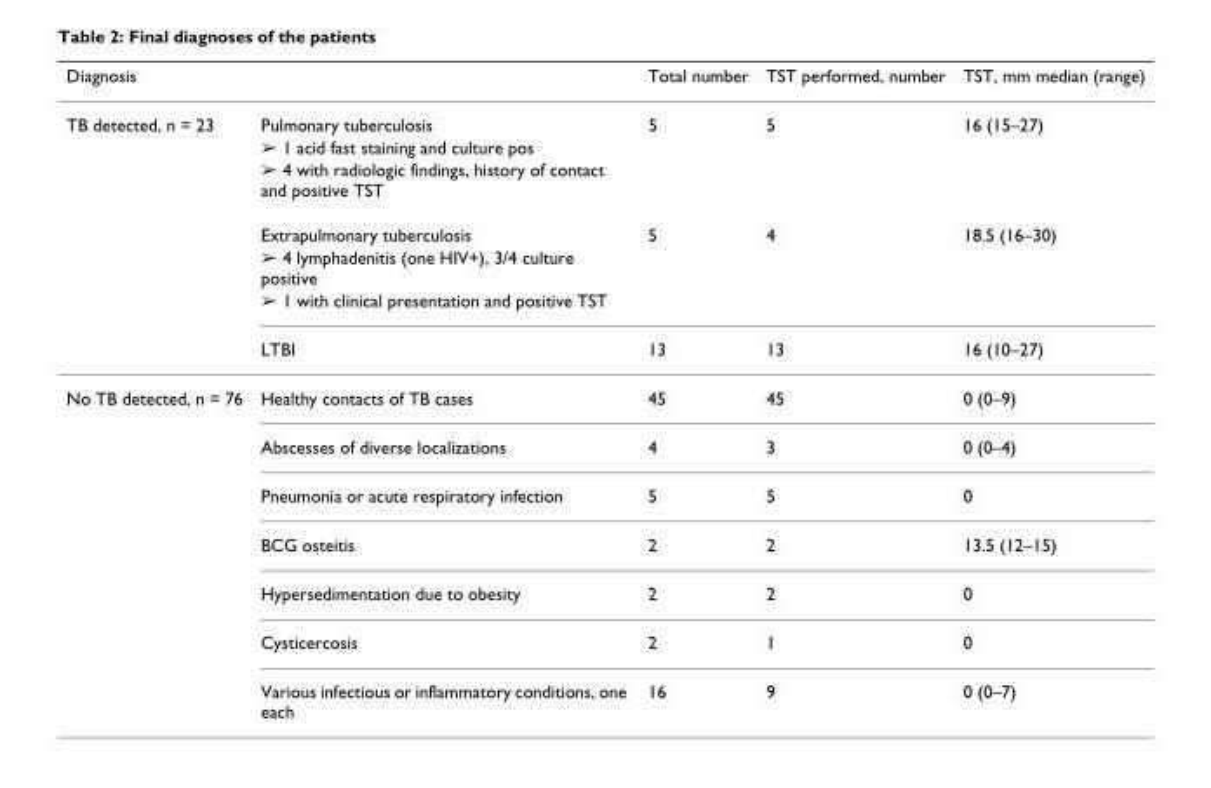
<table><thead><tr><td>Diagnosis</td><td></td><td>Total number</td><td>TST performed, number</td><td>TST, mm median (range)</td></tr></thead><tbody><tr><td rowspan="7">TB detected, n = 23</td><td>Pulmonary tuberculosis</td><td>5</td><td>5</td><td>16 (15–27)</td></tr><tr><td>➢ 1 acid fast staining and culture pos</td><td></td><td></td><td></td></tr><tr><td>➢ 4 with radiologic findings, history of contact and positive TST</td><td></td><td></td><td></td></tr><tr><td>Extrapulmonary tuberculosis</td><td>5</td><td>4</td><td>18.5 (16–30)</td></tr><tr><td>➢ 4 lymphadenitis (one HIV+), 3/4 culture positive</td><td></td><td></td><td></td></tr><tr><td>➢ 1 with clinical presentation and positive TST</td><td></td><td></td><td></td></tr><tr><td>LTBI</td><td>13</td><td>13</td><td>16 (10–27)</td></tr><tr><td rowspan="7">No TB detected, n = 76</td><td>Healthy contacts of TB cases</td><td>45</td><td>45</td><td>0 (0–9)</td></tr><tr><td>Abscesses of diverse localizations</td><td>4</td><td>3</td><td>0 (0–4)</td></tr><tr><td>Pneumonia or acute respiratory infection</td><td>5</td><td>5</td><td>0</td></tr><tr><td>BCG osteitis</td><td>2</td><td>2</td><td>13.5 (12–15)</td></tr><tr><td>Hypersedimentation due to obesity</td><td>2</td><td>2</td><td>0</td></tr><tr><td>Cysticercosis</td><td>2</td><td>1</td><td>0</td></tr><tr><td>Various infectious or inflammatory conditions, one each</td><td>16</td><td>9</td><td>0 (0–7)</td></tr></tbody></table>